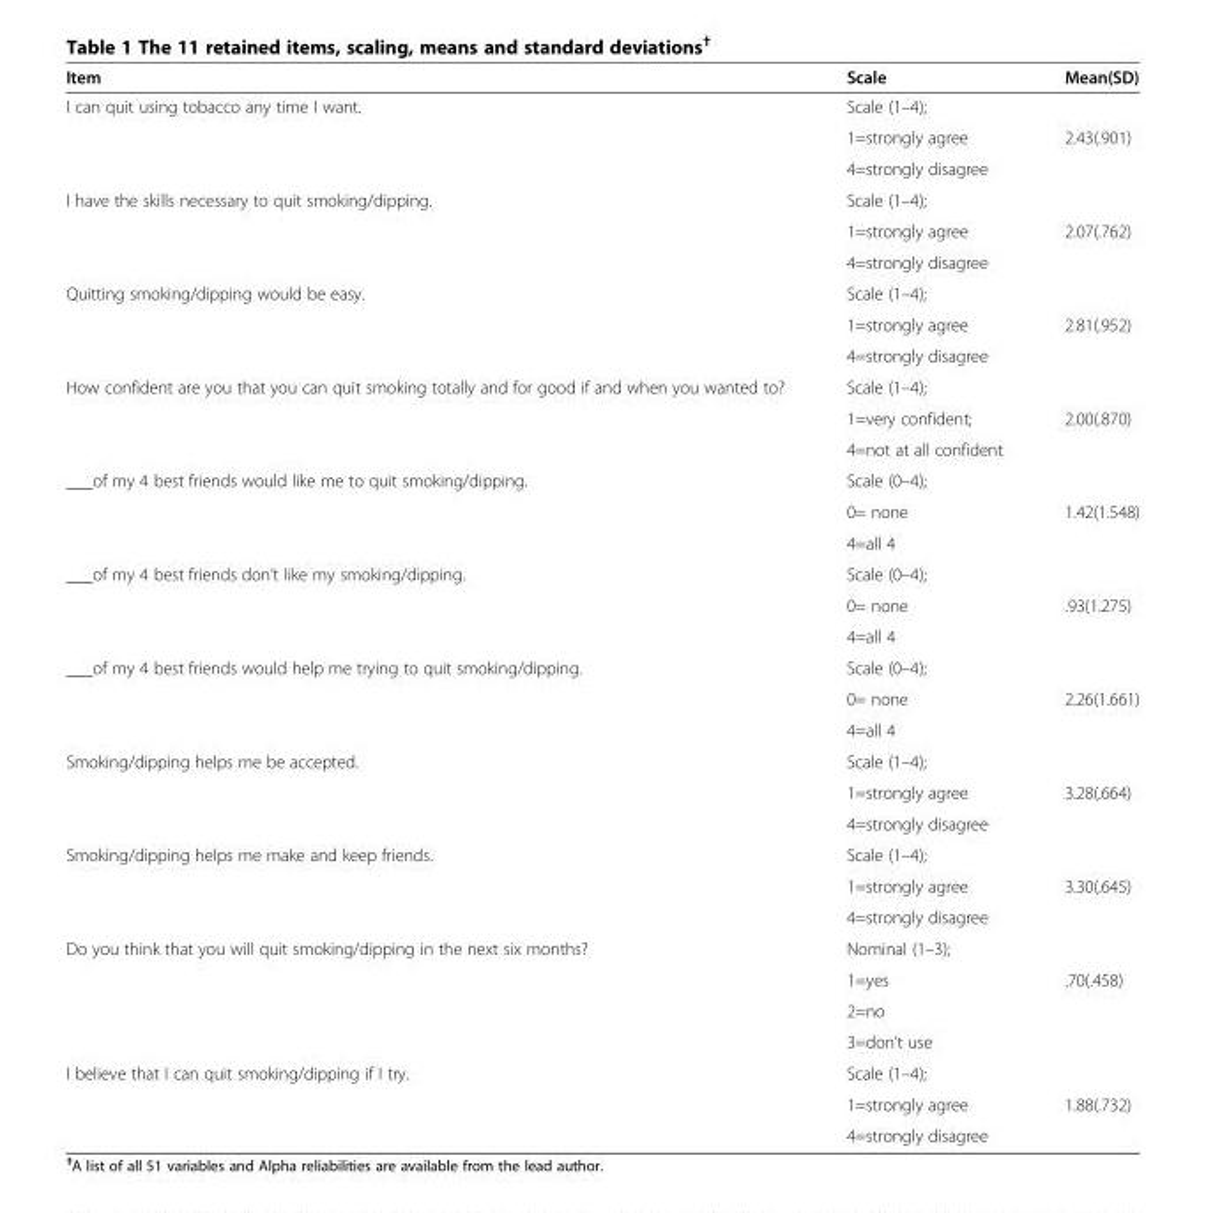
<table><thead><tr><td>Item</td><td>Scale</td><td>Mean(SD)</td></tr></thead><tbody><tr><td rowspan="3">I can quit using tobacco any time I want.</td><td>Scale (1–4);</td><td></td></tr><tr><td>1=strongly agree</td><td>2.43(.901)</td></tr><tr><td>4=strongly disagree</td><td></td></tr><tr><td rowspan="3">I have the skills necessary to quit smoking/dipping.</td><td>Scale (1–4);</td><td></td></tr><tr><td>1=strongly agree</td><td>2.07(.762)</td></tr><tr><td>4=strongly disagree</td><td></td></tr><tr><td rowspan="3">Quitting smoking/dipping would be easy.</td><td>Scale (1–4);</td><td></td></tr><tr><td>1=strongly agree</td><td>2.81(.952)</td></tr><tr><td>4=strongly disagree</td><td></td></tr><tr><td rowspan="3">How confident are you that you can quit smoking totally and for good if and when you wanted to?</td><td>Scale (1–4);</td><td></td></tr><tr><td>1=very confident;</td><td>2.00(.870)</td></tr><tr><td>4=not at all confident</td><td></td></tr><tr><td rowspan="3">___of my 4 best friends would like me to quit smoking/dipping.</td><td>Scale (0–4);</td><td></td></tr><tr><td>0= none</td><td>1.42(1.548)</td></tr><tr><td>4=all 4</td><td></td></tr><tr><td rowspan="3">___of my 4 best friends don’t like my smoking/dipping.</td><td>Scale (0–4);</td><td></td></tr><tr><td>0= none</td><td>.93(1.275)</td></tr><tr><td>4=all 4</td><td></td></tr><tr><td rowspan="3">___of my 4 best friends would help me trying to quit smoking/dipping.</td><td>Scale (0–4);</td><td></td></tr><tr><td>0= none</td><td>2.26(1.661)</td></tr><tr><td>4=all 4</td><td></td></tr><tr><td rowspan="3">Smoking/dipping helps me be accepted.</td><td>Scale (1–4);</td><td></td></tr><tr><td>1=strongly agree</td><td>3.28(.664)</td></tr><tr><td>4=strongly disagree</td><td></td></tr><tr><td rowspan="3">Smoking/dipping helps me make and keep friends.</td><td>Scale (1–4);</td><td></td></tr><tr><td>1=strongly agree</td><td>3.30(.645)</td></tr><tr><td>4=strongly disagree</td><td></td></tr><tr><td rowspan="4">Do you think that you will quit smoking/dipping in the next six months?</td><td>Nominal (1–3);</td><td></td></tr><tr><td>1=yes</td><td>.70(.458)</td></tr><tr><td>2=no</td><td></td></tr><tr><td>3=don’t use</td><td></td></tr><tr><td rowspan="3">I believe that I can quit smoking/dipping if I try.</td><td>Scale (1–4);</td><td></td></tr><tr><td>1=strongly agree</td><td>1.88(.732)</td></tr><tr><td>4=strongly disagree</td><td></td></tr></tbody></table>